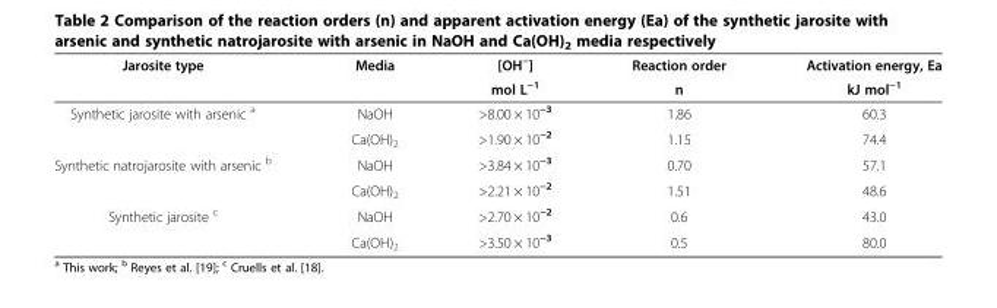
<table><thead><tr><td rowspan="2">Jarosite type</td><td rowspan="2">Media</td><td rowspan="2">[OH<sup>−</sup>] mol L<sup>−1</sup></td><td rowspan="2">Reaction order n</td><td rowspan="2">Activation energy, Ea kJ mol<sup>−1</sup></td></tr><tr></tr></thead><tbody><tr><td rowspan="2">Synthetic jarosite with arsenic <sup>a</sup></td><td>NaOH</td><td>&gt;8.00 × 10<sup>−3</sup></td><td>1.86</td><td>60.3</td></tr><tr><td>Ca(OH)<sub>2</sub></td><td>&gt;1.90 × 10<sup>−2</sup></td><td>1.15</td><td>74.4</td></tr><tr><td rowspan="2">Synthetic natrojarosite with arsenic <sup>b</sup></td><td>NaOH</td><td>&gt;3.84 × 10<sup>−3</sup></td><td>0.70</td><td>57.1</td></tr><tr><td>Ca(OH)<sub>2</sub></td><td>&gt;2.21 × 10<sup>−2</sup></td><td>1.51</td><td>48.6</td></tr><tr><td rowspan="2">Synthetic jarosite <sup>c</sup></td><td>NaOH</td><td>&gt;2.70 × 10<sup>−2</sup></td><td>0.6</td><td>43.0</td></tr><tr><td>Ca(OH)<sub>2</sub></td><td>&gt;3.50 × 10<sup>−3</sup></td><td>0.5</td><td>80.0</td></tr></tbody></table>